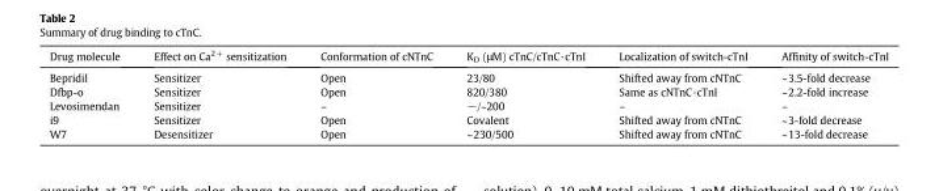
<table><thead><tr><td>Drug molecule</td><td>Effect on Ca<sup>2+</sup> sensitization</td><td>Conformation of cNTnC</td><td>K<sub>D</sub> (μM) cTnC/cTnC·cTnI</td><td>Localization of switch-cTnI</td><td>Affinity of switch-cTnI</td></tr></thead><tbody><tr><td>Bepridil</td><td>Sensitizer</td><td>Open</td><td>23/80</td><td>Shifted away from cNTnC</td><td>~3.5-fold decrease</td></tr><tr><td>Dfbp-o</td><td>Sensitizer</td><td>Open</td><td>820/380</td><td>Same as cNTnC·cTnI</td><td>~2.2-fold increase</td></tr><tr><td>Levosimendan</td><td>Sensitizer</td><td>–</td><td>−/~200</td><td>–</td><td>–</td></tr><tr><td>i9</td><td>Sensitizer</td><td>Open</td><td>Covalent</td><td>Shifted away from cNTnC</td><td>~3-fold decrease</td></tr><tr><td>W7</td><td>Desensitizer</td><td>Open</td><td>~230/500</td><td>Shifted away from cNTnC</td><td>~13-fold decrease</td></tr></tbody></table>